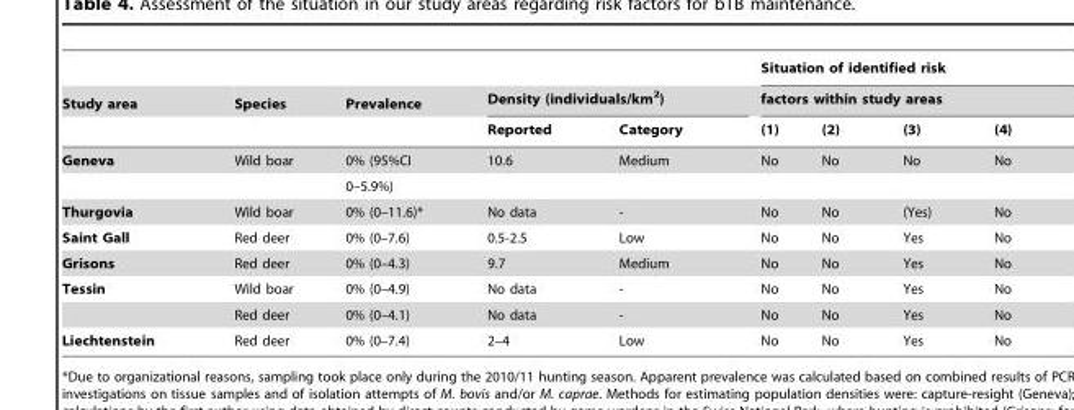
<table><thead><tr><td rowspan="3">Study area</td><td rowspan="3">Species</td><td rowspan="3">Prevalence</td><td></td><td></td><td rowspan="2" colspan="4">Situation of identified risk factors within study areas</td></tr><tr><td colspan="2">Density (individuals/km<sup>2</sup>)</td></tr><tr><td>Reported</td><td>Category</td><td>(1)</td><td>(2)</td><td>(3)</td><td>(4)</td></tr></thead><tbody><tr><td rowspan="2">Geneva</td><td>Wild boar</td><td>0% (95%CI</td><td>10.6</td><td>Medium</td><td>No</td><td>No</td><td>No</td><td>No</td></tr><tr><td></td><td>0–5.9%)</td><td></td><td></td><td></td><td></td><td></td><td></td></tr><tr><td>Thurgovia</td><td>Wild boar</td><td>0% (0–11.6)*</td><td>No data</td><td>-</td><td>No</td><td>No</td><td>(Yes)</td><td>No</td></tr><tr><td>Saint Gall</td><td>Red deer</td><td>0% (0–7.6)</td><td>0.5-2.5</td><td>Low</td><td>No</td><td>No</td><td>Yes</td><td>No</td></tr><tr><td>Grisons</td><td>Red deer</td><td>0% (0–4.3)</td><td>9.7</td><td>Medium</td><td>No</td><td>No</td><td>Yes</td><td>No</td></tr><tr><td rowspan="2">Tessin</td><td>Wild boar</td><td>0% (0–4.9)</td><td>No data</td><td>-</td><td>No</td><td>No</td><td>Yes</td><td>No</td></tr><tr><td>Red deer</td><td>0% (0–4.1)</td><td>No data</td><td>-</td><td>No</td><td>No</td><td>Yes</td><td>No</td></tr><tr><td>Liechtenstein</td><td>Red deer</td><td>0% (0–7.4)</td><td>2–4</td><td>Low</td><td>No</td><td>No</td><td>Yes</td><td>No</td></tr></tbody></table>